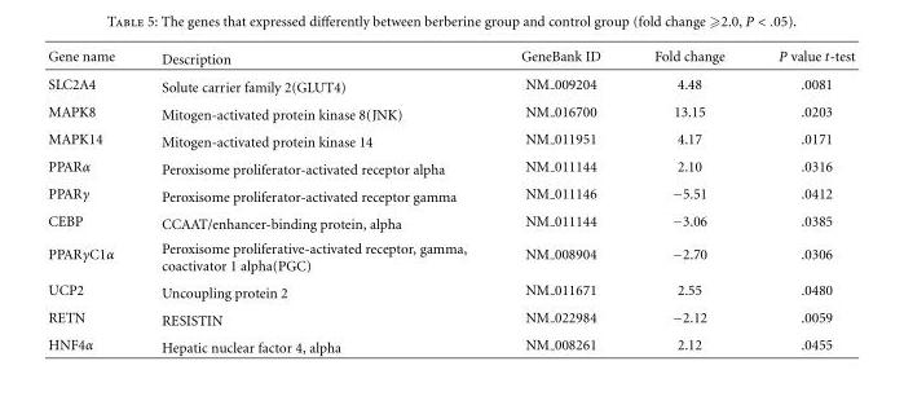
<table><thead><tr><td>Gene name</td><td>Description</td><td>GeneBank ID</td><td>Fold change</td><td>P value t-test</td></tr></thead><tbody><tr><td>SLC2A4</td><td>Solute carrier family 2(GLUT4)</td><td>NM 009204</td><td>4.48</td><td>.0081</td></tr><tr><td>MAPK8</td><td>Mitogen-activated protein kinase 8(JNK)</td><td>NM 016700</td><td>13.15</td><td>.0203</td></tr><tr><td>MAPK14</td><td>Mitogen-activated protein kinase 14</td><td>NM 011951</td><td>4.17</td><td>.0171</td></tr><tr><td>PPARα</td><td>Peroxisome proliferator-activated receptor alpha</td><td>NM 011144</td><td>2.10</td><td>.0316</td></tr><tr><td>PPARγ</td><td>Peroxisome proliferator-activated receptor gamma</td><td>NM 011146</td><td>−5.51</td><td>.0412</td></tr><tr><td>CEBP</td><td>CCAAT/enhancer-binding protein, alpha</td><td>NM 011144</td><td>−3.06</td><td>.0385</td></tr><tr><td>PPARγC1α</td><td>Peroxisome proliferative-activated receptor, gamma, coactivator 1 alpha(PGC)</td><td>NM 008904</td><td>−2.70</td><td>.0306</td></tr><tr><td>UCP2</td><td>Uncoupling protein 2</td><td>NM 011671</td><td>2.55</td><td>.0480</td></tr><tr><td>RETN</td><td>RESISTIN</td><td>NM 022984</td><td>−2.12</td><td>.0059</td></tr><tr><td>HNF4α</td><td>Hepatic nuclear factor 4, alpha</td><td>NM 008261</td><td>2.12</td><td>.0455</td></tr></tbody></table>